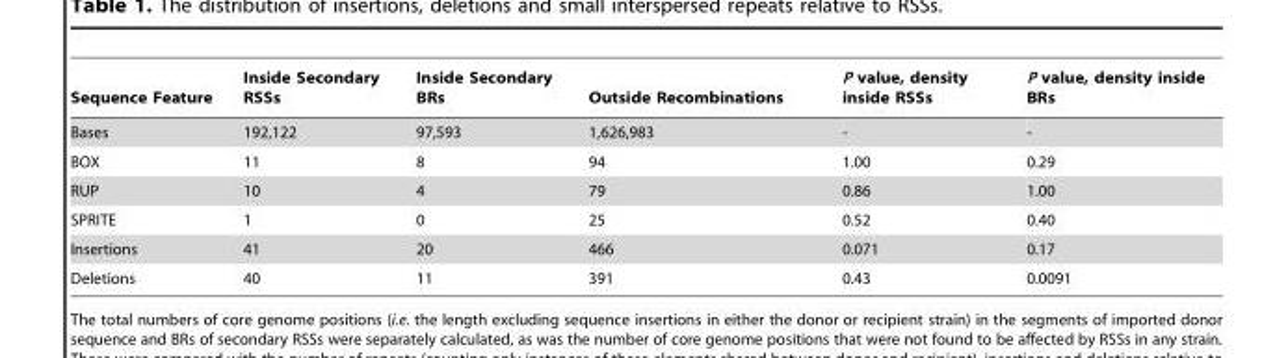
<table><thead><tr><td>Sequence Feature</td><td>Inside Secondary RSSs</td><td>Inside Secondary BRs</td><td>Outside Recombinations</td><td>P value, density inside RSSs</td><td>P value, density inside BRs</td></tr></thead><tbody><tr><td>Bases</td><td>192,122</td><td>97,593</td><td>1,626,983</td><td>-</td><td>-</td></tr><tr><td>BOX</td><td>11</td><td>8</td><td>94</td><td>1.00</td><td>0.29</td></tr><tr><td>RUP</td><td>10</td><td>4</td><td>79</td><td>0.86</td><td>1.00</td></tr><tr><td>SPRITE</td><td>1</td><td>0</td><td>25</td><td>0.52</td><td>0.40</td></tr><tr><td>Insertions</td><td>41</td><td>20</td><td>466</td><td>0.071</td><td>0.17</td></tr><tr><td>Deletions</td><td>40</td><td>11</td><td>391</td><td>0.43</td><td>0.0091</td></tr></tbody></table>